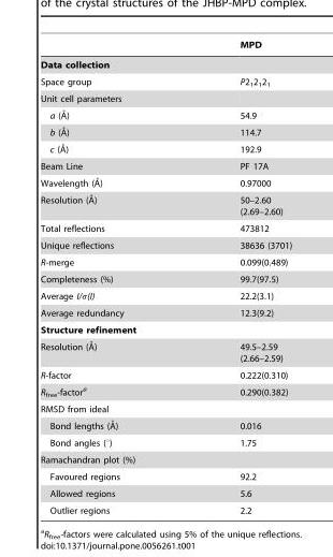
<table><thead><tr><td></td><td>MPD</td></tr></thead><tbody><tr><td colspan="2">Data collection</td></tr><tr><td>Space group</td><td>P2<sub>1</sub>2<sub>1</sub>2<sub>1</sub></td></tr><tr><td colspan="2">Unit cell parameters</td></tr><tr><td>a (A˚)</td><td>54.9</td></tr><tr><td>b (A˚)</td><td>114.7</td></tr><tr><td>c (A˚)</td><td>192.9</td></tr><tr><td>Beam Line</td><td>PF 17A</td></tr><tr><td>Wavelength (A˚)</td><td>0.97000</td></tr><tr><td>Resolution (A˚)</td><td>50–2.60 (2.69–2.60)</td></tr><tr><td>Total reflections</td><td>473812</td></tr><tr><td>Unique reflections</td><td>38636 (3701)</td></tr><tr><td>R-merge</td><td>0.099(0.489)</td></tr><tr><td>Completeness (%)</td><td>99.7(97.5)</td></tr><tr><td>Average I/σ(I)</td><td>22.2(3.1)</td></tr><tr><td>Average redundancy</td><td>12.3(9.2)</td></tr><tr><td colspan="2">Structure refinement</td></tr><tr><td>Resolution (A˚)</td><td>49.5–2.59 (2.66–2.59)</td></tr><tr><td>R-factor</td><td>0.222(0.310)</td></tr><tr><td>R<sub>free</sub>-factor<sup>a</sup></td><td>0.290(0.382)</td></tr><tr><td colspan="2">RMSD from ideal</td></tr><tr><td>Bond lengths (A˚)</td><td>0.016</td></tr><tr><td>Bond angles (°)</td><td>1.75</td></tr><tr><td colspan="2">Ramachandran plot (%)</td></tr><tr><td>Favoured regions</td><td>92.2</td></tr><tr><td>Allowed regions</td><td>5.6</td></tr><tr><td>Outlier regions</td><td>2.2</td></tr></tbody></table>